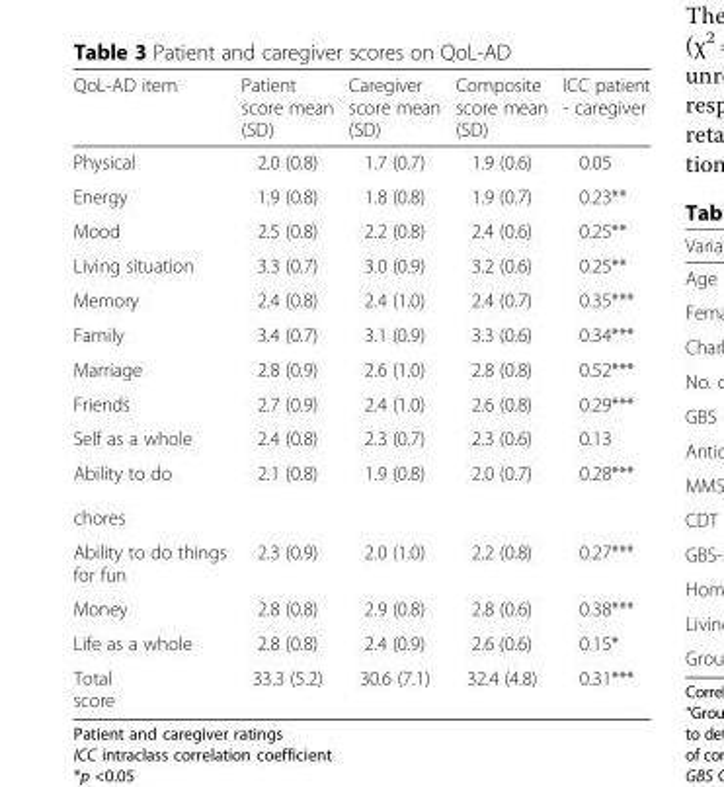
<table><thead><tr><td>QoL-AD item</td><td>Patient score mean (SD)</td><td>Caregiver score mean (SD)</td><td>Composite score mean (SD)</td><td>ICC patient - caregiver</td></tr></thead><tbody><tr><td>Physical</td><td>2.0 (0.8)</td><td>1.7 (0.7)</td><td>1.9 (0.6)</td><td>0.05</td></tr><tr><td>Energy</td><td>1.9 (0.8)</td><td>1.8 (0.8)</td><td>1.9 (0.7)</td><td>0.23**</td></tr><tr><td>Mood</td><td>2.5 (0.8)</td><td>2.2 (0.8)</td><td>2.4 (0.6)</td><td>0.25**</td></tr><tr><td>Living situation</td><td>3.3 (0.7)</td><td>3.0 (0.9)</td><td>3.2 (0.6)</td><td>0.25**</td></tr><tr><td>Memory</td><td>2.4 (0.8)</td><td>2.4 (1.0)</td><td>2.4 (0.7)</td><td>0.35***</td></tr><tr><td>Family</td><td>3.4 (0.7)</td><td>3.1 (0.9)</td><td>3.3 (0.6)</td><td>0.34***</td></tr><tr><td>Marriage</td><td>2.8 (0.9)</td><td>2.6 (1.0)</td><td>2.8 (0.8)</td><td>0.52***</td></tr><tr><td>Friends</td><td>2.7 (0.9)</td><td>2.4 (1.0)</td><td>2.6 (0.8)</td><td>0.29***</td></tr><tr><td>Self as a whole</td><td>2.4 (0.8)</td><td>2.3 (0.7)</td><td>2.3 (0.6)</td><td>0.13</td></tr><tr><td>Ability to do chores</td><td>2.1 (0.8)</td><td>1.9 (0.8)</td><td>2.0 (0.7)</td><td>0.28***</td></tr><tr><td>Ability to do things for fun</td><td>2.3 (0.9)</td><td>2.0 (1.0)</td><td>2.2 (0.8)</td><td>0.27***</td></tr><tr><td>Money</td><td>2.8 (0.8)</td><td>2.9 (0.8)</td><td>2.8 (0.6)</td><td>0.38***</td></tr><tr><td>Life as a whole</td><td>2.8 (0.8)</td><td>2.4 (0.9)</td><td>2.6 (0.6)</td><td>0.15*</td></tr><tr><td>Total score</td><td>33.3 (5.2)</td><td>30.6 (7.1)</td><td>32.4 (4.8)</td><td>0.31***</td></tr></tbody></table>